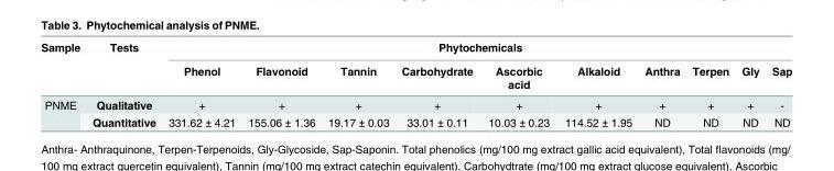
<table><thead><tr><td rowspan="2">Sample</td><td rowspan="2">Tests</td><td colspan="10">Phytochemicals</td></tr><tr><td>Phenol</td><td>Flavonoid</td><td>Tannin</td><td>Carbohydrate</td><td>Ascorbic acid</td><td>Alkaloid</td><td>Anthra</td><td>Terpen</td><td>Gly</td><td>Sap</td></tr></thead><tbody><tr><td rowspan="2">PNME</td><td>Qualitative</td><td>+</td><td>+</td><td>+</td><td>+</td><td>+</td><td>+</td><td>+</td><td>+</td><td>+</td><td>-</td></tr><tr><td>Quantitative</td><td>331.62 ± 4.21</td><td>155.06 ± 1.36</td><td>19.17 ± 0.03</td><td>33.01 ± 0.11</td><td>10.03 ± 0.23</td><td>114.52 ± 1.95</td><td>ND</td><td>ND</td><td>ND</td><td>ND</td></tr></tbody></table>